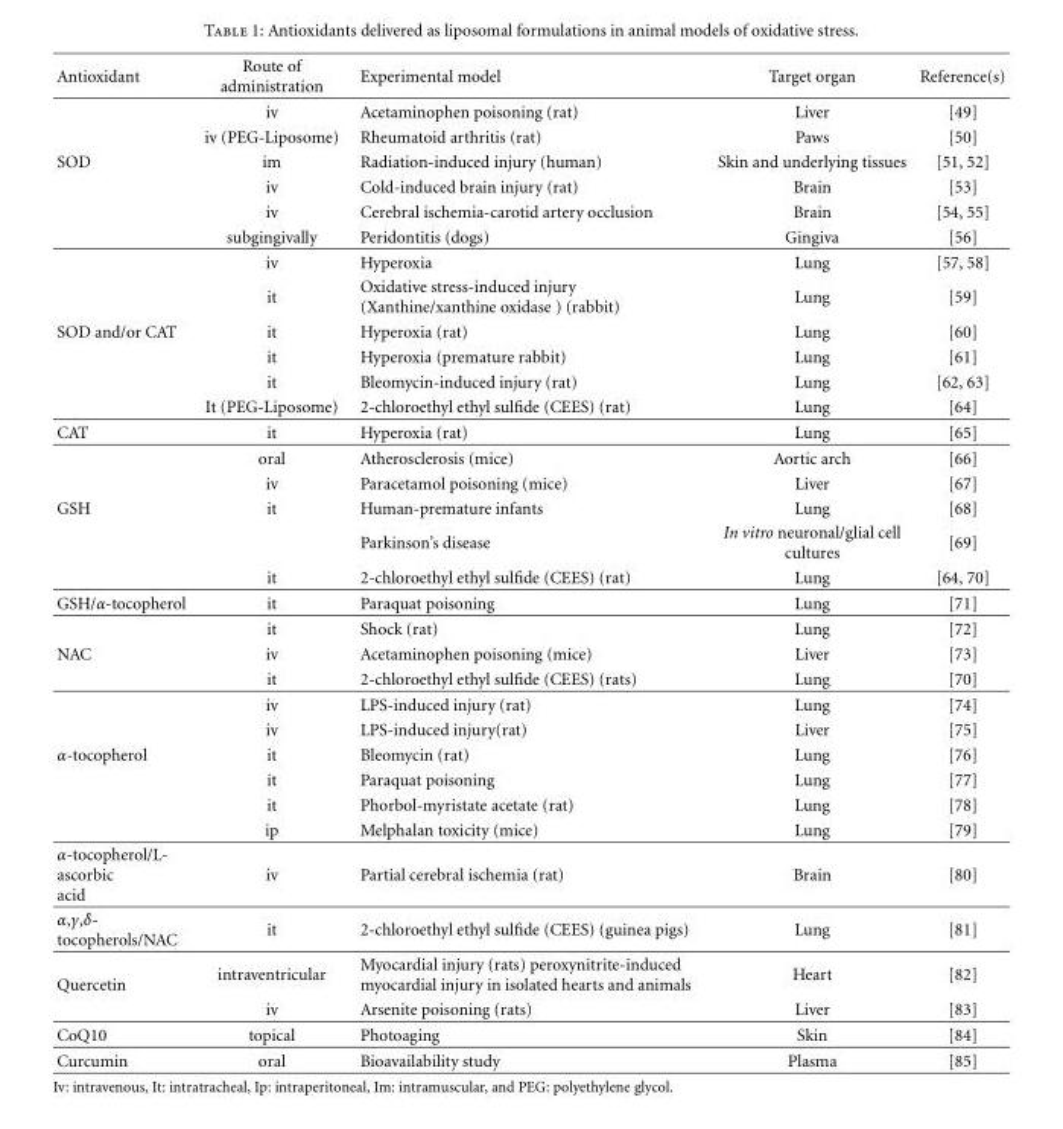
<table><thead><tr><td>Antioxidant</td><td>Route of administration</td><td>Experimental model</td><td>Target organ</td><td>Reference(s)</td></tr></thead><tbody><tr><td></td><td>iv</td><td>Acetaminophen poisoning (rat)</td><td>Liver</td><td>[49]</td></tr><tr><td></td><td>iv (PEG-Liposome)</td><td>Rheumatoid arthritis (rat)</td><td>Paws</td><td>[50]</td></tr><tr><td rowspan="6">SOD</td><td>im</td><td>Radiation-induced injury (human)</td><td>Skin and underlying tissues</td><td>[51, 52]</td></tr><tr><td>iv</td><td>Cold-induced brain injury (rat)</td><td>Brain</td><td>[53]</td></tr><tr><td>iv</td><td>Cerebral ischemia-carotid artery occlusion</td><td>Brain</td><td>[54, 55]</td></tr><tr><td>subgingivally</td><td>Peridontitis (dogs)</td><td>Gingiva</td><td>[56]</td></tr><tr><td>iv</td><td>Hyperoxia</td><td>Lung</td><td>[57, 58]</td></tr><tr><td>it</td><td>Oxidative stress-induced injury (Xanthine/xanthine oxidase ) (rabbit)</td><td>Lung</td><td>[59]</td></tr><tr><td rowspan="4">SOD and/or CAT</td><td>it</td><td>Hyperoxia (rat)</td><td>Lung</td><td>[60]</td></tr><tr><td>it</td><td>Hyperoxia (premature rabbit)</td><td>Lung</td><td>[61]</td></tr><tr><td>it</td><td>Bleomycin-induced injury (rat)</td><td>Lung</td><td>[62, 63]</td></tr><tr><td>It (PEG-Liposome)</td><td>2-chloroethyl ethyl sulfide (CEES) (rat)</td><td>Lung</td><td>[64]</td></tr><tr><td rowspan="3">CAT</td><td>it</td><td>Hyperoxia (rat)</td><td>Lung</td><td>[65]</td></tr><tr><td>oral</td><td>Atherosclerosis (mice)</td><td>Aortic arch</td><td>[66]</td></tr><tr><td>iv</td><td>Paracetamol poisoning (mice)</td><td>Liver</td><td>[67]</td></tr><tr><td rowspan="3">GSH</td><td>it</td><td>Human-premature infants</td><td>Lung</td><td>[68]</td></tr><tr><td></td><td>Parkinson’s disease</td><td>In vitro neuronal/glial cell cultures</td><td>[69]</td></tr><tr><td>it</td><td>2-chloroethyl ethyl sulfide (CEES) (rat)</td><td>Lung</td><td>[64, 70]</td></tr><tr><td rowspan="2">GSH/α-tocopherol</td><td>it</td><td>Paraquat poisoning</td><td>Lung</td><td>[71]</td></tr><tr><td>it</td><td>Shock (rat)</td><td>Lung</td><td>[72]</td></tr><tr><td rowspan="4">NAC</td><td>iv</td><td>Acetaminophen poisoning (mice)</td><td>Liver</td><td>[73]</td></tr><tr><td>it</td><td>2-chloroethyl ethyl sulfide (CEES) (rats)</td><td>Lung</td><td>[70]</td></tr><tr><td>iv</td><td>LPS-induced injury (rat)</td><td>Lung</td><td>[74]</td></tr><tr><td>iv</td><td>LPS-induced injury(rat)</td><td>Liver</td><td>[75]</td></tr><tr><td rowspan="4">α-tocopherol</td><td>it</td><td>Bleomycin (rat)</td><td>Lung</td><td>[76]</td></tr><tr><td>it</td><td>Paraquat poisoning</td><td>Lung</td><td>[77]</td></tr><tr><td>it</td><td>Phorbol-myristate acetate (rat)</td><td>Lung</td><td>[78]</td></tr><tr><td>ip</td><td>Melphalan toxicity (mice)</td><td>Lung</td><td>[79]</td></tr><tr><td>α-tocopherol/L- ascorbic acid</td><td>iv</td><td>Partial cerebral ischemia (rat)</td><td>Brain</td><td>[80]</td></tr><tr><td>α,γ,δ- tocopherols/NAC</td><td>it</td><td>2-chloroethyl ethyl sulfide (CEES) (guinea pigs)</td><td>Lung</td><td>[81]</td></tr><tr><td rowspan="2">Quercetin</td><td>intraventricular</td><td>Myocardial injury (rats) peroxynitrite-induced myocardial injury in isolated hearts and animals</td><td>Heart</td><td>[82]</td></tr><tr><td>iv</td><td>Arsenite poisoning (rats)</td><td>Liver</td><td>[83]</td></tr><tr><td>CoQ10</td><td>topical</td><td>Photoaging</td><td>Skin</td><td>[84]</td></tr><tr><td>Curcumin</td><td>oral</td><td>Bioavailability study</td><td>Plasma</td><td>[85]</td></tr></tbody></table>